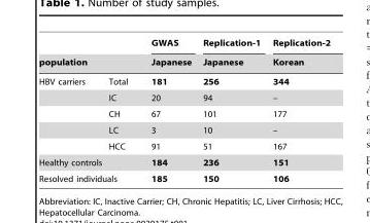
<table><thead><tr><td></td><td></td><td rowspan="2">GWAS Japanese</td><td rowspan="2">Replication-1 Japanese</td><td rowspan="2">Replication-2 Korean</td></tr><tr><td colspan="2">population</td></tr></thead><tbody><tr><td rowspan="5">HBV carriers</td><td>Total</td><td>181</td><td>256</td><td>344</td></tr><tr><td>IC</td><td>20</td><td>94</td><td>–</td></tr><tr><td>CH</td><td>67</td><td>101</td><td>177</td></tr><tr><td>LC</td><td>3</td><td>10</td><td>–</td></tr><tr><td>HCC</td><td>91</td><td>51</td><td>167</td></tr><tr><td colspan="2">Healthy controls</td><td>184</td><td>236</td><td>151</td></tr><tr><td colspan="2">Resolved individuals</td><td>185</td><td>150</td><td>106</td></tr></tbody></table>